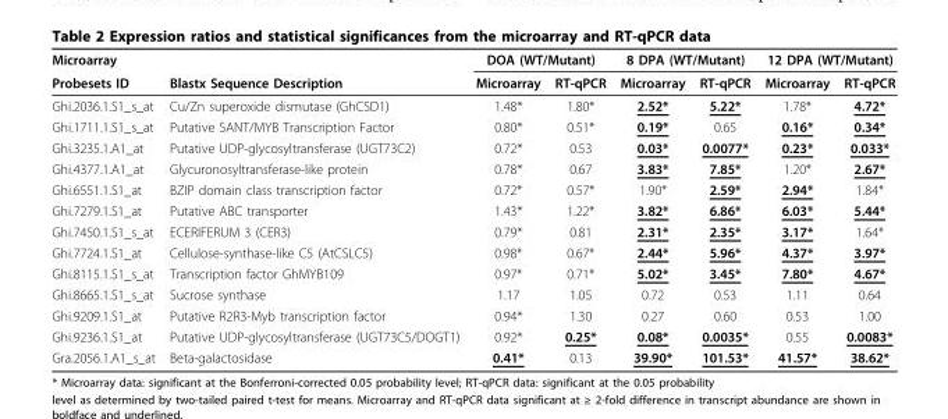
<table><thead><tr><td rowspan="2">Microarray Probesets ID</td><td rowspan="2">Blastx Sequence Description</td><td colspan="2">DOA (WT/Mutant)</td><td colspan="2">8 DPA (WT/Mutant)</td><td colspan="2">12 DPA (WT/Mutant)</td></tr><tr><td>Microarray</td><td>RT-qPCR</td><td>Microarray</td><td>RT-qPCR</td><td>Microarray</td><td>RT-qPCR</td></tr></thead><tbody><tr><td>Ghi.2036.1.S1_s_at</td><td>Cu/Zn superoxide dismutase (GhCSD1)</td><td>1.48*</td><td>1.80*</td><td>2.52*</td><td>5.22*</td><td>1.78*</td><td>4.72*</td></tr><tr><td>Ghi.1711.1.S1_s_at</td><td>Putative SANT/MYB Transcription Factor</td><td>0.80*</td><td>0.51*</td><td>0.19*</td><td>0.65</td><td>0.16*</td><td>0.34*</td></tr><tr><td>Ghi.3235.1.A1_at</td><td>Putative UDP-glycosyltransferase (UGT73C2)</td><td>0.72*</td><td>0.53</td><td>0.03*</td><td>0.0077*</td><td>0.23*</td><td>0.033*</td></tr><tr><td>Ghi.4377.1.A1_at</td><td>Glycuronosyltransferase-like protein</td><td>0.78*</td><td>0.67</td><td>3.83*</td><td>7.85*</td><td>1.20*</td><td>2.67*</td></tr><tr><td>Ghi.6551.1.S1_at</td><td>BZIP domain class transcription factor</td><td>0.72*</td><td>0.57*</td><td>1.90*</td><td>2.59*</td><td>2.94*</td><td>1.84*</td></tr><tr><td>Ghi.7279.1.S1_at</td><td>Putative ABC transporter</td><td>1.43*</td><td>1.22*</td><td>3.82*</td><td>6.86*</td><td>6.03*</td><td>5.44*</td></tr><tr><td>Ghi.7450.1.S1_s_at</td><td>ECERIFERUM 3 (CER3)</td><td>0.79*</td><td>0.81</td><td>2.31*</td><td>2.35*</td><td>3.17*</td><td>1.64*</td></tr><tr><td>Ghi.7724.1.S1_at</td><td>Cellulose-synthase-like C5 (AtCSLC5)</td><td>0.98*</td><td>0.67*</td><td>2.44*</td><td>5.96*</td><td>4.37*</td><td>3.97*</td></tr><tr><td>Ghi.8115.1.S1_s_at</td><td>Transcription factor GhMYB109</td><td>0.97*</td><td>0.71*</td><td>5.02*</td><td>3.45*</td><td>7.80*</td><td>4.67*</td></tr><tr><td>Ghi.8665.1.S1_s_at</td><td>Sucrose synthase</td><td>1.17</td><td>1.05</td><td>0.72</td><td>0.53</td><td>1.11</td><td>0.64</td></tr><tr><td>Ghi.9209.1.S1_at</td><td>Putative R2R3-Myb transcription factor</td><td>0.94*</td><td>1.30</td><td>0.27</td><td>0.60</td><td>0.53</td><td>1.00</td></tr><tr><td>Ghi.9236.1.S1_at</td><td>Putative UDP-glycosyltransferase (UGT73C5/DOGT1)</td><td>0.92*</td><td>0.25*</td><td>0.08*</td><td>0.0035*</td><td>0.55</td><td>0.0083*</td></tr><tr><td>Gra.2056.1.A1_s_at</td><td>Beta-galactosidase</td><td>0.41*</td><td>0.13</td><td>39.90*</td><td>101.53*</td><td>41.57*</td><td>38.62*</td></tr></tbody></table>